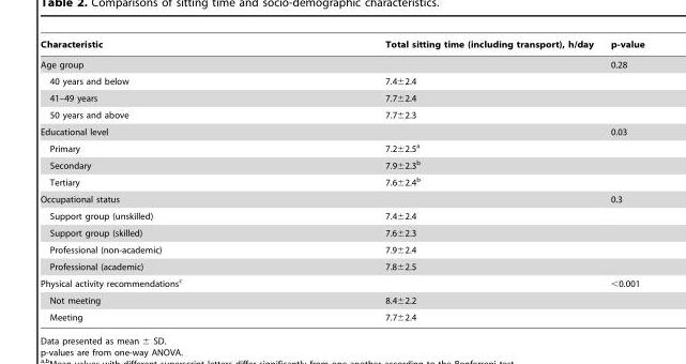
<table><thead><tr><td>Characteristic</td><td>Total sitting time (including transport), h/day</td><td>p-value</td></tr></thead><tbody><tr><td colspan="2">Age group</td><td>0.28</td></tr><tr><td>40 years and below</td><td>7.4±2.4</td><td></td></tr><tr><td>41–49 years</td><td>7.7±2.4</td><td></td></tr><tr><td>50 years and above</td><td>7.7±2.3</td><td></td></tr><tr><td colspan="2">Educational level</td><td>0.03</td></tr><tr><td>Primary</td><td>7.2±2.5<sup>a</sup></td><td></td></tr><tr><td>Secondary</td><td>7.9±2.3<sup>b</sup></td><td></td></tr><tr><td>Tertiary</td><td>7.6±2.4<sup>b</sup></td><td></td></tr><tr><td colspan="2">Occupational status</td><td>0.3</td></tr><tr><td>Support group (unskilled)</td><td>7.4±2.4</td><td></td></tr><tr><td>Support group (skilled)</td><td>7.6±2.3</td><td></td></tr><tr><td>Professional (non-academic)</td><td>7.9±2.4</td><td></td></tr><tr><td>Professional (academic)</td><td>7.8±2.5</td><td></td></tr><tr><td colspan="2">Physical activity recommendations<sup>c</sup></td><td>&lt;0.001</td></tr><tr><td>Not meeting</td><td>8.4±2.2</td><td></td></tr><tr><td>Meeting</td><td>7.7±2.4</td><td></td></tr></tbody></table>